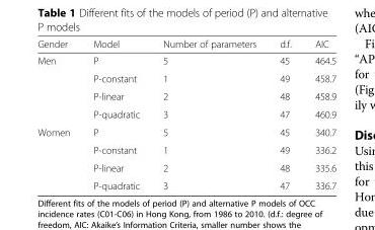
<table><thead><tr><td>Gender</td><td>Model</td><td>Number of parameters</td><td>d.f.</td><td>AIC</td></tr></thead><tbody><tr><td rowspan="4">Men</td><td>P</td><td>5</td><td>45</td><td>464.5</td></tr><tr><td>P-constant</td><td>1</td><td>49</td><td>458.7</td></tr><tr><td>P-linear</td><td>2</td><td>48</td><td>458.9</td></tr><tr><td>P-quadratic</td><td>3</td><td>47</td><td>460.9</td></tr><tr><td rowspan="4">Women</td><td>P</td><td>5</td><td>45</td><td>340.7</td></tr><tr><td>P-constant</td><td>1</td><td>49</td><td>336.2</td></tr><tr><td>P-linear</td><td>2</td><td>48</td><td>335.6</td></tr><tr><td>P-quadratic</td><td>3</td><td>47</td><td>336.7</td></tr></tbody></table>